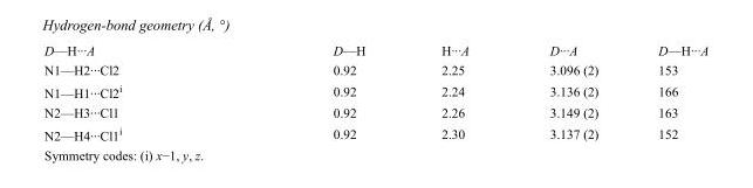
<table><tbody><tr><td>D—H···A</td><td>D—H</td><td>H···A</td><td>D···A</td><td>D—H···A</td></tr><tr><td>N1—H2···Cl2</td><td>0.92</td><td>2.25</td><td>3.096 (2)</td><td>153</td></tr><tr><td>N1—H1···Cl2<sup>i</sup></td><td>0.92</td><td>2.24</td><td>3.136 (2)</td><td>166</td></tr><tr><td>N2—H3···Cl1</td><td>0.92</td><td>2.26</td><td>3.149 (2)</td><td>163</td></tr><tr><td>N2—H4···Cl1<sup>i</sup></td><td>0.92</td><td>2.30</td><td>3.137 (2)</td><td>152</td></tr></tbody></table>